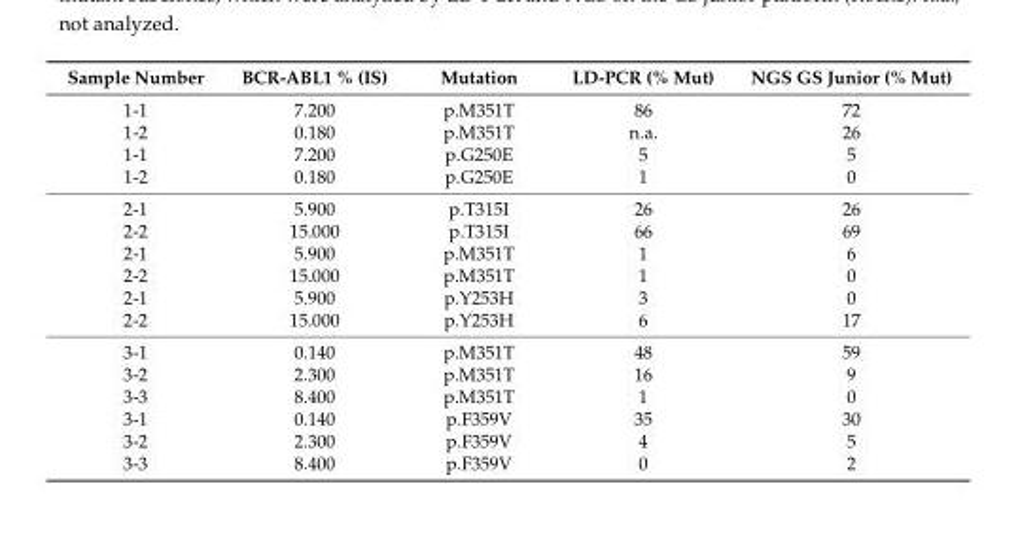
<table><thead><tr><td>Sample Number</td><td>BCR-ABL1 % (IS)</td><td>Mutation</td><td>LD-PCR (% Mut)</td><td>NGS GS Junior (% Mut)</td></tr></thead><tbody><tr><td>1-1</td><td>7.200</td><td>p.M351T</td><td>86</td><td>72</td></tr><tr><td>1-2</td><td>0.180</td><td>p.M351T</td><td>n.a.</td><td>26</td></tr><tr><td>1-1</td><td>7.200</td><td>p.G250E</td><td>5</td><td>5</td></tr><tr><td>1-2</td><td>0.180</td><td>p.G250E</td><td>1</td><td>0</td></tr><tr><td>2-1</td><td>5.900</td><td>p.T315I</td><td>26</td><td>26</td></tr><tr><td>2-2</td><td>15.000</td><td>p.T315I</td><td>66</td><td>69</td></tr><tr><td>2-1</td><td>5.900</td><td>p.M351T</td><td>1</td><td>6</td></tr><tr><td>2-2</td><td>15.000</td><td>p.M351T</td><td>1</td><td>0</td></tr><tr><td>2-1</td><td>5.900</td><td>p.Y253H</td><td>3</td><td>0</td></tr><tr><td>2-2</td><td>15.000</td><td>p.Y253H</td><td>6</td><td>17</td></tr><tr><td>3-1</td><td>0.140</td><td>p.M351T</td><td>48</td><td>59</td></tr><tr><td>3-2</td><td>2.300</td><td>p.M351T</td><td>16</td><td>9</td></tr><tr><td>3-3</td><td>8.400</td><td>p.M351T</td><td>1</td><td>0</td></tr><tr><td>3-1</td><td>0.140</td><td>p.F359V</td><td>35</td><td>30</td></tr><tr><td>3-2</td><td>2.300</td><td>p.F359V</td><td>4</td><td>5</td></tr><tr><td>3-3</td><td>8.400</td><td>p.F359V</td><td>0</td><td>2</td></tr></tbody></table>